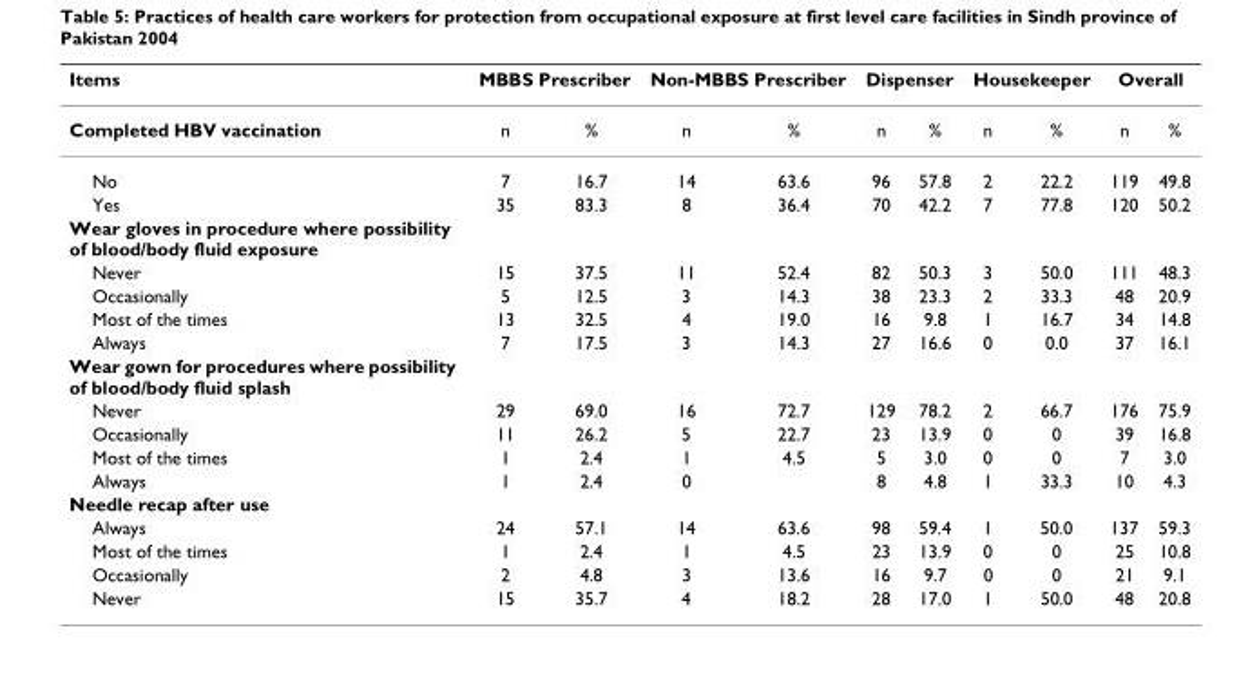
<table><thead><tr><td rowspan="2">Items Completed HBV vaccination</td><td colspan="2">MBBS Prescriber</td><td colspan="2">Non-MBBS Prescriber</td><td colspan="2">Dispenser</td><td colspan="2">Housekeeper</td><td colspan="2">Overall</td></tr><tr><td>n</td><td>%</td><td>n</td><td>%</td><td>n</td><td>%</td><td>n</td><td>%</td><td>n</td><td>%</td></tr></thead><tbody><tr><td>No</td><td>7</td><td>16.7</td><td>14</td><td>63.6</td><td>96</td><td>57.8</td><td>2</td><td>22.2</td><td>119</td><td>49.8</td></tr><tr><td>Yes</td><td>35</td><td>83.3</td><td>8</td><td>36.4</td><td>70</td><td>42.2</td><td>7</td><td>77.8</td><td>120</td><td>50.2</td></tr><tr><td colspan="11">Wear gloves in procedure where possibility of blood/body fluid exposure</td></tr><tr><td>Never</td><td>15</td><td>37.5</td><td>11</td><td>52.4</td><td>82</td><td>50.3</td><td>3</td><td>50.0</td><td>111</td><td>48.3</td></tr><tr><td>Occasionally</td><td>5</td><td>12.5</td><td>3</td><td>14.3</td><td>38</td><td>23.3</td><td>2</td><td>33.3</td><td>48</td><td>20.9</td></tr><tr><td>Most of the times</td><td>13</td><td>32.5</td><td>4</td><td>19.0</td><td>16</td><td>9.8</td><td>1</td><td>16.7</td><td>34</td><td>14.8</td></tr><tr><td>Always</td><td>7</td><td>17.5</td><td>3</td><td>14.3</td><td>27</td><td>16.6</td><td>0</td><td>0.0</td><td>37</td><td>16.1</td></tr><tr><td colspan="11">Wear gown for procedures where possibility of blood/body fluid splash</td></tr><tr><td>Never</td><td>29</td><td>69.0</td><td>16</td><td>72.7</td><td>129</td><td>78.2</td><td>2</td><td>66.7</td><td>176</td><td>75.9</td></tr><tr><td>Occasionally</td><td>11</td><td>26.2</td><td>5</td><td>22.7</td><td>23</td><td>13.9</td><td>0</td><td>0</td><td>39</td><td>16.8</td></tr><tr><td>Most of the times</td><td>1</td><td>2.4</td><td>1</td><td>4.5</td><td>5</td><td>3.0</td><td>0</td><td>0</td><td>7</td><td>3.0</td></tr><tr><td>Always</td><td>1</td><td>2.4</td><td>0</td><td></td><td>8</td><td>4.8</td><td>1</td><td>33.3</td><td>10</td><td>4.3</td></tr><tr><td colspan="11">Needle recap after use</td></tr><tr><td>Always</td><td>24</td><td>57.1</td><td>14</td><td>63.6</td><td>98</td><td>59.4</td><td>1</td><td>50.0</td><td>137</td><td>59.3</td></tr><tr><td>Most of the times</td><td>1</td><td>2.4</td><td>1</td><td>4.5</td><td>23</td><td>13.9</td><td>0</td><td>0</td><td>25</td><td>10.8</td></tr><tr><td>Occasionally</td><td>2</td><td>4.8</td><td>3</td><td>13.6</td><td>16</td><td>9.7</td><td>0</td><td>0</td><td>21</td><td>9.1</td></tr><tr><td>Never</td><td>15</td><td>35.7</td><td>4</td><td>18.2</td><td>28</td><td>17.0</td><td>1</td><td>50.0</td><td>48</td><td>20.8</td></tr></tbody></table>